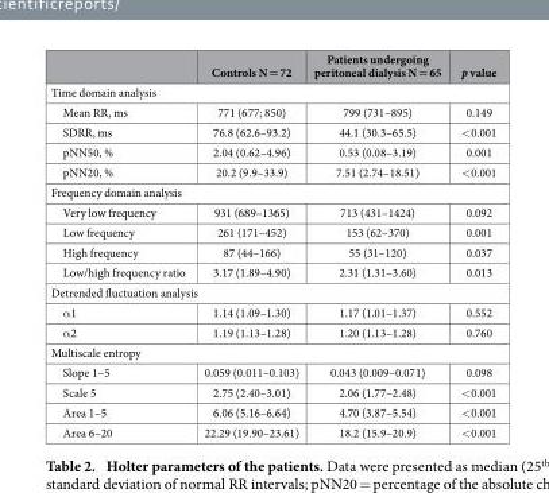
<table><thead><tr><td></td><td>Controls N = 72</td><td>Patients undergoing peritoneal dialysis N = 65</td><td>p value</td></tr></thead><tbody><tr><td colspan="4">Time domain analysis</td></tr><tr><td>Mean RR, ms</td><td>771 (677; 850)</td><td>799 (731–895)</td><td>0.149</td></tr><tr><td>SDRR, ms</td><td>76.8 (62.6–93.2)</td><td>44.1 (30.3–65.5)</td><td>&lt; 0.001</td></tr><tr><td>pNN50, %</td><td>2.04 (0.62–4.96)</td><td>0.53 (0.08–3.19)</td><td>0.001</td></tr><tr><td>pNN20, %</td><td>20.2 (9.9–33.9)</td><td>7.51 (2.74–18.51)</td><td>&lt; 0.001</td></tr><tr><td colspan="4">Frequency domain analysis</td></tr><tr><td>Very low frequency</td><td>931 (689–1365)</td><td>713 (431–1424)</td><td>0.092</td></tr><tr><td>Low frequency</td><td>261 (171–452)</td><td>153 (62–370)</td><td>0.001</td></tr><tr><td>High frequency</td><td>87 (44–166)</td><td>55 (31–120)</td><td>0.037</td></tr><tr><td>Low/high frequency ratio</td><td>3.17 (1.89–4.90)</td><td>2.31 (1.31–3.60)</td><td>0.013</td></tr><tr><td colspan="4">Detrended fluctuation analysis</td></tr><tr><td>α 1</td><td>1.14 (1.09–1.30)</td><td>1.17 (1.01–1.37)</td><td>0.552</td></tr><tr><td>α 2</td><td>1.19 (1.13–1.28)</td><td>1.20 (1.13–1.28)</td><td>0.760</td></tr><tr><td colspan="4">Multiscale entropy</td></tr><tr><td>Slope 1–5</td><td>0.059 (0.011–0.103)</td><td>0.043 (0.009–0.071)</td><td>0.098</td></tr><tr><td>Scale 5</td><td>2.75 (2.40–3.01)</td><td>2.06 (1.77–2.48)</td><td>&lt; 0.001</td></tr><tr><td>Area 1–5</td><td>6.06 (5.16–6.64)</td><td>4.70 (3.87–5.54)</td><td>&lt; 0.001</td></tr><tr><td>Area 6–20</td><td>22.29 (19.90–23.61)</td><td>18.2 (15.9–20.9)</td><td>&lt; 0.001</td></tr></tbody></table>